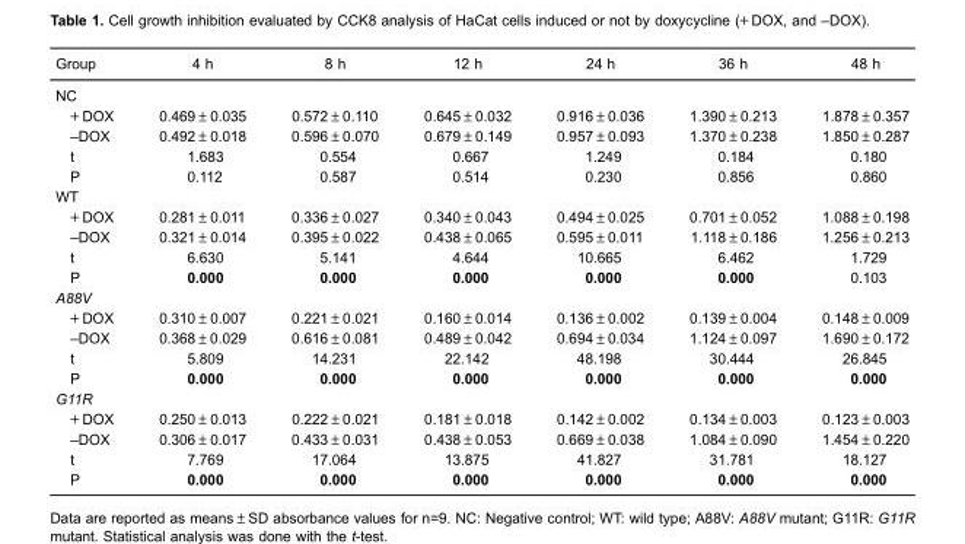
<table><thead><tr><td>Group</td><td>4 h</td><td>8 h</td><td>12 h</td><td>24 h</td><td>36 h</td><td>48 h</td></tr></thead><tbody><tr><td colspan="7">NC</td></tr><tr><td>+DOX</td><td>0.469±0.035</td><td>0.572±0.110</td><td>0.645±0.032</td><td>0.916±0.036</td><td>1.390±0.213</td><td>1.878±0.357</td></tr><tr><td>–DOX</td><td>0.492±0.018</td><td>0.596±0.070</td><td>0.679±0.149</td><td>0.957±0.093</td><td>1.370±0.238</td><td>1.850±0.287</td></tr><tr><td>t</td><td>1.683</td><td>0.554</td><td>0.667</td><td>1.249</td><td>0.184</td><td>0.180</td></tr><tr><td>P</td><td>0.112</td><td>0.587</td><td>0.514</td><td>0.230</td><td>0.856</td><td>0.860</td></tr><tr><td colspan="7">WT</td></tr><tr><td>+DOX</td><td>0.281±0.011</td><td>0.336±0.027</td><td>0.340±0.043</td><td>0.494±0.025</td><td>0.701±0.052</td><td>1.088±0.198</td></tr><tr><td>–DOX</td><td>0.321±0.014</td><td>0.395±0.022</td><td>0.438±0.065</td><td>0.595±0.011</td><td>1.118±0.186</td><td>1.256±0.213</td></tr><tr><td>t</td><td>6.630</td><td>5.141</td><td>4.644</td><td>10.665</td><td>6.462</td><td>1.729</td></tr><tr><td>P</td><td>0.000</td><td>0.000</td><td>0.000</td><td>0.000</td><td>0.000</td><td>0.103</td></tr><tr><td colspan="7">A88V</td></tr><tr><td>+DOX</td><td>0.310±0.007</td><td>0.221±0.021</td><td>0.160±0.014</td><td>0.136±0.002</td><td>0.139±0.004</td><td>0.148±0.009</td></tr><tr><td>–DOX</td><td>0.368±0.029</td><td>0.616±0.081</td><td>0.489±0.042</td><td>0.694±0.034</td><td>1.124±0.097</td><td>1.690±0.172</td></tr><tr><td>t</td><td>5.809</td><td>14.231</td><td>22.142</td><td>48.198</td><td>30.444</td><td>26.845</td></tr><tr><td>P</td><td>0.000</td><td>0.000</td><td>0.000</td><td>0.000</td><td>0.000</td><td>0.000</td></tr><tr><td colspan="7">G11R</td></tr><tr><td>+DOX</td><td>0.250±0.013</td><td>0.222±0.021</td><td>0.181±0.018</td><td>0.142±0.002</td><td>0.134±0.003</td><td>0.123±0.003</td></tr><tr><td>–DOX</td><td>0.306±0.017</td><td>0.433±0.031</td><td>0.438±0.053</td><td>0.669±0.038</td><td>1.084±0.090</td><td>1.454±0.220</td></tr><tr><td>t</td><td>7.769</td><td>17.064</td><td>13.875</td><td>41.827</td><td>31.781</td><td>18.127</td></tr><tr><td>P</td><td>0.000</td><td>0.000</td><td>0.000</td><td>0.000</td><td>0.000</td><td>0.000</td></tr></tbody></table>